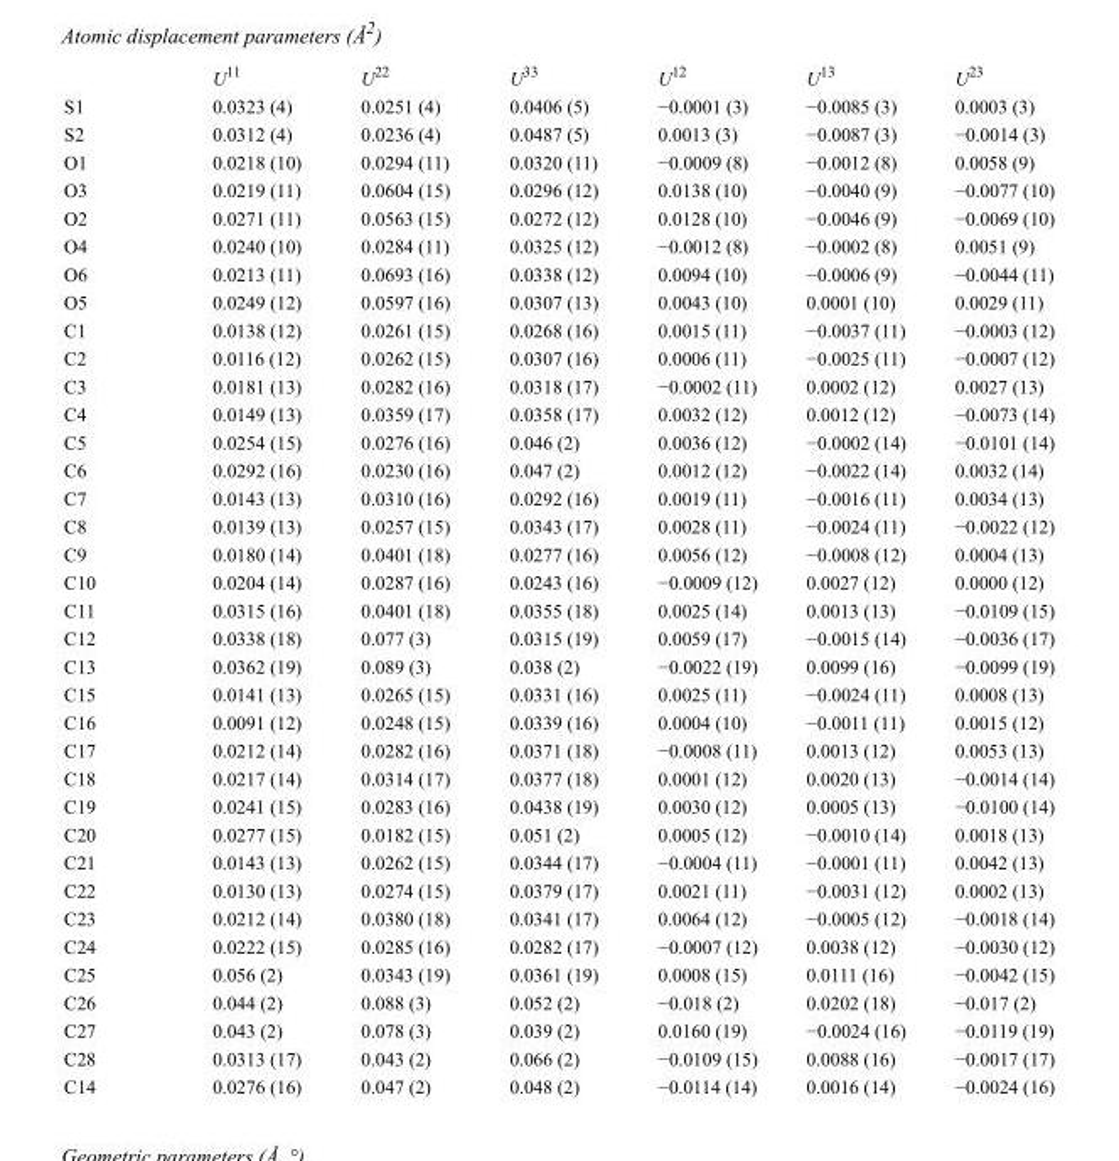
<table><thead><tr><td></td><td>U<sup>11</sup></td><td>U<sup>22</sup></td><td>U<sup>33</sup></td><td>U<sup>12</sup></td><td>U<sup>13</sup></td><td>U<sup>23</sup></td></tr></thead><tbody><tr><td>S1</td><td>0.0323 (4)</td><td>0.0251 (4)</td><td>0.0406 (5)</td><td>−0.0001 (3)</td><td>−0.0085 (3)</td><td>0.0003 (3)</td></tr><tr><td>S2</td><td>0.0312 (4)</td><td>0.0236 (4)</td><td>0.0487 (5)</td><td>0.0013 (3)</td><td>−0.0087 (3)</td><td>−0.0014 (3)</td></tr><tr><td>O1</td><td>0.0218 (10)</td><td>0.0294 (11)</td><td>0.0320 (11)</td><td>−0.0009 (8)</td><td>−0.0012 (8)</td><td>0.0058 (9)</td></tr><tr><td>O3</td><td>0.0219 (11)</td><td>0.0604 (15)</td><td>0.0296 (12)</td><td>0.0138 (10)</td><td>−0.0040 (9)</td><td>−0.0077 (10)</td></tr><tr><td>O2</td><td>0.0271 (11)</td><td>0.0563 (15)</td><td>0.0272 (12)</td><td>0.0128 (10)</td><td>−0.0046 (9)</td><td>−0.0069 (10)</td></tr><tr><td>O4</td><td>0.0240 (10)</td><td>0.0284 (11)</td><td>0.0325 (12)</td><td>−0.0012 (8)</td><td>−0.0002 (8)</td><td>0.0051 (9)</td></tr><tr><td>O6</td><td>0.0213 (11)</td><td>0.0693 (16)</td><td>0.0338 (12)</td><td>0.0094 (10)</td><td>−0.0006 (9)</td><td>−0.0044 (11)</td></tr><tr><td>O5</td><td>0.0249 (12)</td><td>0.0597 (16)</td><td>0.0307 (13)</td><td>0.0043 (10)</td><td>0.0001 (10)</td><td>0.0029 (11)</td></tr><tr><td>C1</td><td>0.0138 (12)</td><td>0.0261 (15)</td><td>0.0268 (16)</td><td>0.0015 (11)</td><td>−0.0037 (11)</td><td>−0.0003 (12)</td></tr><tr><td>C2</td><td>0.0116 (12)</td><td>0.0262 (15)</td><td>0.0307 (16)</td><td>0.0006 (11)</td><td>−0.0025 (11)</td><td>−0.0007 (12)</td></tr><tr><td>C3</td><td>0.0181 (13)</td><td>0.0282 (16)</td><td>0.0318 (17)</td><td>−0.0002 (11)</td><td>0.0002 (12)</td><td>0.0027 (13)</td></tr><tr><td>C4</td><td>0.0149 (13)</td><td>0.0359 (17)</td><td>0.0358 (17)</td><td>0.0032 (12)</td><td>0.0012 (12)</td><td>−0.0073 (14)</td></tr><tr><td>C5</td><td>0.0254 (15)</td><td>0.0276 (16)</td><td>0.046 (2)</td><td>0.0036 (12)</td><td>−0.0002 (14)</td><td>−0.0101 (14)</td></tr><tr><td>C6</td><td>0.0292 (16)</td><td>0.0230 (16)</td><td>0.047 (2)</td><td>0.0012 (12)</td><td>−0.0022 (14)</td><td>0.0032 (14)</td></tr><tr><td>C7</td><td>0.0143 (13)</td><td>0.0310 (16)</td><td>0.0292 (16)</td><td>0.0019 (11)</td><td>−0.0016 (11)</td><td>0.0034 (13)</td></tr><tr><td>C8</td><td>0.0139 (13)</td><td>0.0257 (15)</td><td>0.0343 (17)</td><td>0.0028 (11)</td><td>−0.0024 (11)</td><td>−0.0022 (12)</td></tr><tr><td>C9</td><td>0.0180 (14)</td><td>0.0401 (18)</td><td>0.0277 (16)</td><td>0.0056 (12)</td><td>−0.0008 (12)</td><td>0.0004 (13)</td></tr><tr><td>C10</td><td>0.0204 (14)</td><td>0.0287 (16)</td><td>0.0243 (16)</td><td>−0.0009 (12)</td><td>0.0027 (12)</td><td>0.0000 (12)</td></tr><tr><td>C11</td><td>0.0315 (16)</td><td>0.0401 (18)</td><td>0.0355 (18)</td><td>0.0025 (14)</td><td>0.0013 (13)</td><td>−0.0109 (15)</td></tr><tr><td>C12</td><td>0.0338 (18)</td><td>0.077 (3)</td><td>0.0315 (19)</td><td>0.0059 (17)</td><td>−0.0015 (14)</td><td>−0.0036 (17)</td></tr><tr><td>C13</td><td>0.0362 (19)</td><td>0.089 (3)</td><td>0.038 (2)</td><td>−0.0022 (19)</td><td>0.0099 (16)</td><td>−0.0099 (19)</td></tr><tr><td>C15</td><td>0.0141 (13)</td><td>0.0265 (15)</td><td>0.0331 (16)</td><td>0.0025 (11)</td><td>−0.0024 (11)</td><td>0.0008 (13)</td></tr><tr><td>C16</td><td>0.0091 (12)</td><td>0.0248 (15)</td><td>0.0339 (16)</td><td>0.0004 (10)</td><td>−0.0011 (11)</td><td>0.0015 (12)</td></tr><tr><td>C17</td><td>0.0212 (14)</td><td>0.0282 (16)</td><td>0.0371 (18)</td><td>−0.0008 (11)</td><td>0.0013 (12)</td><td>0.0053 (13)</td></tr><tr><td>C18</td><td>0.0217 (14)</td><td>0.0314 (17)</td><td>0.0377 (18)</td><td>0.0001 (12)</td><td>0.0020 (13)</td><td>−0.0014 (14)</td></tr><tr><td>C19</td><td>0.0241 (15)</td><td>0.0283 (16)</td><td>0.0438 (19)</td><td>0.0030 (12)</td><td>0.0005 (13)</td><td>−0.0100 (14)</td></tr><tr><td>C20</td><td>0.0277 (15)</td><td>0.0182 (15)</td><td>0.051 (2)</td><td>0.0005 (12)</td><td>−0.0010 (14)</td><td>0.0018 (13)</td></tr><tr><td>C21</td><td>0.0143 (13)</td><td>0.0262 (15)</td><td>0.0344 (17)</td><td>−0.0004 (11)</td><td>−0.0001 (11)</td><td>0.0042 (13)</td></tr><tr><td>C22</td><td>0.0130 (13)</td><td>0.0274 (15)</td><td>0.0379 (17)</td><td>0.0021 (11)</td><td>−0.0031 (12)</td><td>0.0002 (13)</td></tr><tr><td>C23</td><td>0.0212 (14)</td><td>0.0380 (18)</td><td>0.0341 (17)</td><td>0.0064 (12)</td><td>−0.0005 (12)</td><td>−0.0018 (14)</td></tr><tr><td>C24</td><td>0.0222 (15)</td><td>0.0285 (16)</td><td>0.0282 (17)</td><td>−0.0007 (12)</td><td>0.0038 (12)</td><td>−0.0030 (12)</td></tr><tr><td>C25</td><td>0.056 (2)</td><td>0.0343 (19)</td><td>0.0361 (19)</td><td>0.0008 (15)</td><td>0.0111 (16)</td><td>−0.0042 (15)</td></tr><tr><td>C26</td><td>0.044 (2)</td><td>0.088 (3)</td><td>0.052 (2)</td><td>−0.018 (2)</td><td>0.0202 (18)</td><td>−0.017 (2)</td></tr><tr><td>C27</td><td>0.043 (2)</td><td>0.078 (3)</td><td>0.039 (2)</td><td>0.0160 (19)</td><td>−0.0024 (16)</td><td>−0.0119 (19)</td></tr><tr><td>C28</td><td>0.0313 (17)</td><td>0.043 (2)</td><td>0.066 (2)</td><td>−0.0109 (15)</td><td>0.0088 (16)</td><td>−0.0017 (17)</td></tr><tr><td>C14</td><td>0.0276 (16)</td><td>0.047 (2)</td><td>0.048 (2)</td><td>−0.0114 (14)</td><td>0.0016 (14)</td><td>−0.0024 (16)</td></tr></tbody></table>